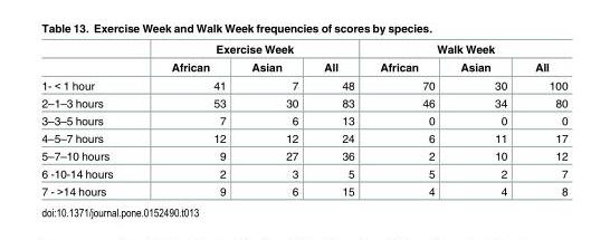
<table><thead><tr><td rowspan="2"></td><td colspan="3">Exercise Week</td><td colspan="3">Walk Week</td></tr><tr><td>African</td><td>Asian</td><td>All</td><td>African</td><td>Asian</td><td>All</td></tr></thead><tbody><tr><td>1- &lt; 1 hour</td><td>41</td><td>7</td><td>48</td><td>70</td><td>30</td><td>100</td></tr><tr><td>2–1–3 hours</td><td>53</td><td>30</td><td>83</td><td>46</td><td>34</td><td>80</td></tr><tr><td>3–3–5 hours</td><td>7</td><td>6</td><td>13</td><td>0</td><td>0</td><td>0</td></tr><tr><td>4–5–7 hours</td><td>12</td><td>12</td><td>24</td><td>6</td><td>11</td><td>17</td></tr><tr><td>5–7–10 hours</td><td>9</td><td>27</td><td>36</td><td>2</td><td>10</td><td>12</td></tr><tr><td>6 -10-14 hours</td><td>2</td><td>3</td><td>5</td><td>5</td><td>2</td><td>7</td></tr><tr><td>7 - &gt;14 hours</td><td>9</td><td>6</td><td>15</td><td>4</td><td>4</td><td>8</td></tr></tbody></table>